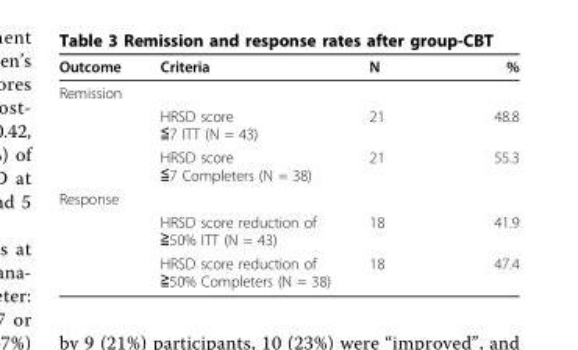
<table><thead><tr><td>Outcome</td><td>Criteria</td><td>N</td><td>%</td></tr></thead><tbody><tr><td colspan="4">Remission</td></tr><tr><td></td><td>HRSD score ≦7 ITT (N = 43)</td><td>21</td><td>48.8</td></tr><tr><td></td><td>HRSD score ≦7 Completers (N = 38)</td><td>21</td><td>55.3</td></tr><tr><td colspan="4">Response</td></tr><tr><td></td><td>HRSD score reduction of ≧50% ITT (N = 43)</td><td>18</td><td>41.9</td></tr><tr><td></td><td>HRSD score reduction of ≧50% Completers (N = 38)</td><td>18</td><td>47.4</td></tr></tbody></table>